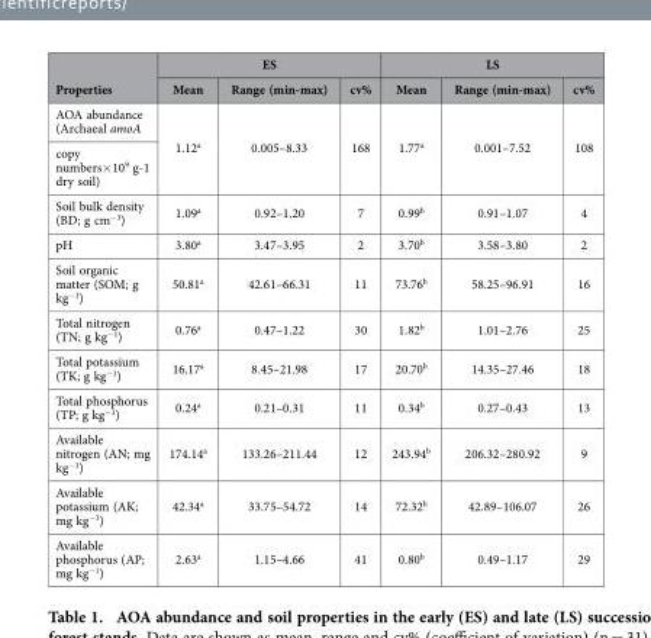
<table><thead><tr><td rowspan="2">Properties</td><td colspan="3">ES</td><td colspan="3">LS</td></tr><tr><td>Mean</td><td>Range (min-max)</td><td>cv%</td><td>Mean</td><td>Range (min-max)</td><td>cv%</td></tr></thead><tbody><tr><td>AOA abundance (Archaeal amoA</td><td rowspan="2">1.12<sup>a</sup></td><td rowspan="2">0.005–8.33</td><td rowspan="2">168</td><td rowspan="2">1.77<sup>a</sup></td><td rowspan="2">0.001–7.52</td><td rowspan="2">108</td></tr><tr><td>copy numbers× 10<sup>9</sup> g-1 dry soil)</td></tr><tr><td>Soil bulk density (BD; g cm<sup>−3</sup>)</td><td>1.09<sup>a</sup></td><td>0.92–1.20</td><td>7</td><td>0.99<sup>b</sup></td><td>0.91–1.07</td><td>4</td></tr><tr><td>pH</td><td>3.80<sup>a</sup></td><td>3.47–3.95</td><td>2</td><td>3.70<sup>b</sup></td><td>3.58–3.80</td><td>2</td></tr><tr><td>Soil organic matter (SOM; g kg<sup>−1</sup>)</td><td>50.81<sup>a</sup></td><td>42.61–66.31</td><td>11</td><td>73.76<sup>b</sup></td><td>58.25–96.91</td><td>16</td></tr><tr><td>Total nitrogen (TN; g kg<sup>−1</sup>)</td><td>0.76<sup>a</sup></td><td>0.47–1.22</td><td>30</td><td>1.82<sup>b</sup></td><td>1.01–2.76</td><td>25</td></tr><tr><td>Total potassium (TK; g kg<sup>−1</sup>)</td><td>16.17<sup>a</sup></td><td>8.45–21.98</td><td>17</td><td>20.70<sup>b</sup></td><td>14.35–27.46</td><td>18</td></tr><tr><td>Total phosphorus (TP; g kg<sup>−1</sup>)</td><td>0.24<sup>a</sup></td><td>0.21–0.31</td><td>11</td><td>0.34<sup>b</sup></td><td>0.27–0.43</td><td>13</td></tr><tr><td>Available nitrogen (AN; mg kg<sup>−1</sup>)</td><td>174.14<sup>a</sup></td><td>133.26–211.44</td><td>12</td><td>243.94<sup>b</sup></td><td>206.32–280.92</td><td>9</td></tr><tr><td>Available potassium (AK; mg kg<sup>−1</sup>)</td><td>42.34<sup>a</sup></td><td>33.75–54.72</td><td>14</td><td>72.32<sup>b</sup></td><td>42.89–106.07</td><td>26</td></tr><tr><td>Available phosphorus (AP; mg kg<sup>−1</sup>)</td><td>2.63<sup>a</sup></td><td>1.15–4.66</td><td>41</td><td>0.80<sup>b</sup></td><td>0.49–1.17</td><td>29</td></tr></tbody></table>